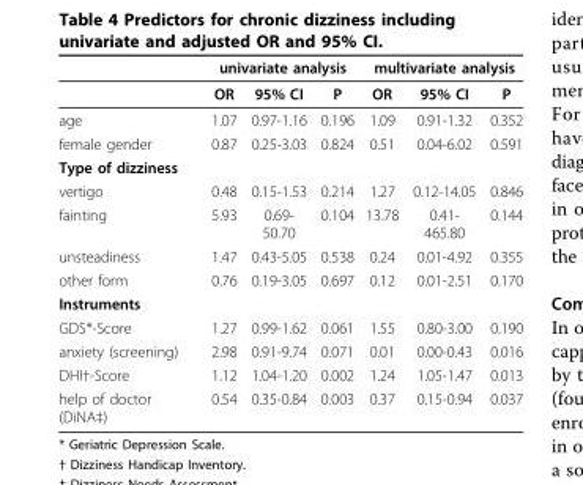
<table><thead><tr><td rowspan="2"></td><td colspan="3">univariate analysis</td><td colspan="3">multivariate analysis</td></tr><tr><td>OR</td><td>95% CI</td><td>P</td><td>OR</td><td>95% CI</td><td>P</td></tr></thead><tbody><tr><td>age</td><td>1.07</td><td>0.97-1.16</td><td>0.196</td><td>1.09</td><td>0.91-1.32</td><td>0.352</td></tr><tr><td>female gender</td><td>0.87</td><td>0.25-3.03</td><td>0.824</td><td>0.51</td><td>0.04-6.02</td><td>0.591</td></tr><tr><td colspan="7">Type of dizziness</td></tr><tr><td>vertigo</td><td>0.48</td><td>0.15-1.53</td><td>0.214</td><td>1.27</td><td>0.12-14.05</td><td>0.846</td></tr><tr><td>fainting</td><td>5.93</td><td>0.69- 50.70</td><td>0.104</td><td>13.78</td><td>0.41- 465.80</td><td>0.144</td></tr><tr><td>unsteadiness</td><td>1.47</td><td>0.43-5.05</td><td>0.538</td><td>0.24</td><td>0.01-4.92</td><td>0.355</td></tr><tr><td>other form</td><td>0.76</td><td>0.19-3.05</td><td>0.697</td><td>0.12</td><td>0.01-2.51</td><td>0.170</td></tr><tr><td colspan="7">Instruments</td></tr><tr><td>GDS*-Score</td><td>1.27</td><td>0.99-1.62</td><td>0.061</td><td>1.55</td><td>0.80-3.00</td><td>0.190</td></tr><tr><td>anxiety (screening)</td><td>2.98</td><td>0.91-9.74</td><td>0.071</td><td>0.01</td><td>0.00-0.43</td><td>0.016</td></tr><tr><td>DHI†-Score</td><td>1.12</td><td>1.04-1.20</td><td>0.002</td><td>1.24</td><td>1.05-1.47</td><td>0.013</td></tr><tr><td>help of doctor (DiNA‡)</td><td>0.54</td><td>0.35-0.84</td><td>0.003</td><td>0.37</td><td>0.15-0.94</td><td>0.037</td></tr></tbody></table>